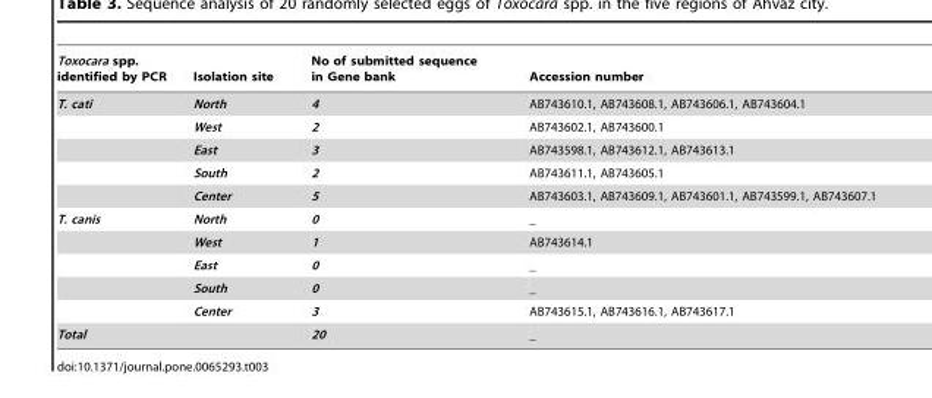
<table><thead><tr><td>Toxocara spp. identified by PCR</td><td>Isolation site</td><td>No of submitted sequence in Gene bank</td><td>Accession number</td></tr></thead><tbody><tr><td>T. cati</td><td>North</td><td>4</td><td>AB743610.1, AB743608.1, AB743606.1, AB743604.1</td></tr><tr><td></td><td>West</td><td>2</td><td>AB743602.1, AB743600.1</td></tr><tr><td rowspan="5">T. canis</td><td>East</td><td>3</td><td>AB743598.1, AB743612.1, AB743613.1</td></tr><tr><td>South</td><td>2</td><td>AB743611.1, AB743605.1</td></tr><tr><td>Center</td><td>5</td><td>AB743603.1, AB743609.1, AB743601.1, AB743599.1, AB743607.1</td></tr><tr><td>North</td><td>0</td><td>_</td></tr><tr><td>West</td><td>1</td><td>AB743614.1</td></tr><tr><td rowspan="3"></td><td>East</td><td>0</td><td>_</td></tr><tr><td>South</td><td>0</td><td>_</td></tr><tr><td>Center</td><td>3</td><td>AB743615.1, AB743616.1, AB743617.1</td></tr><tr><td>Total</td><td></td><td>20</td><td>_</td></tr></tbody></table>